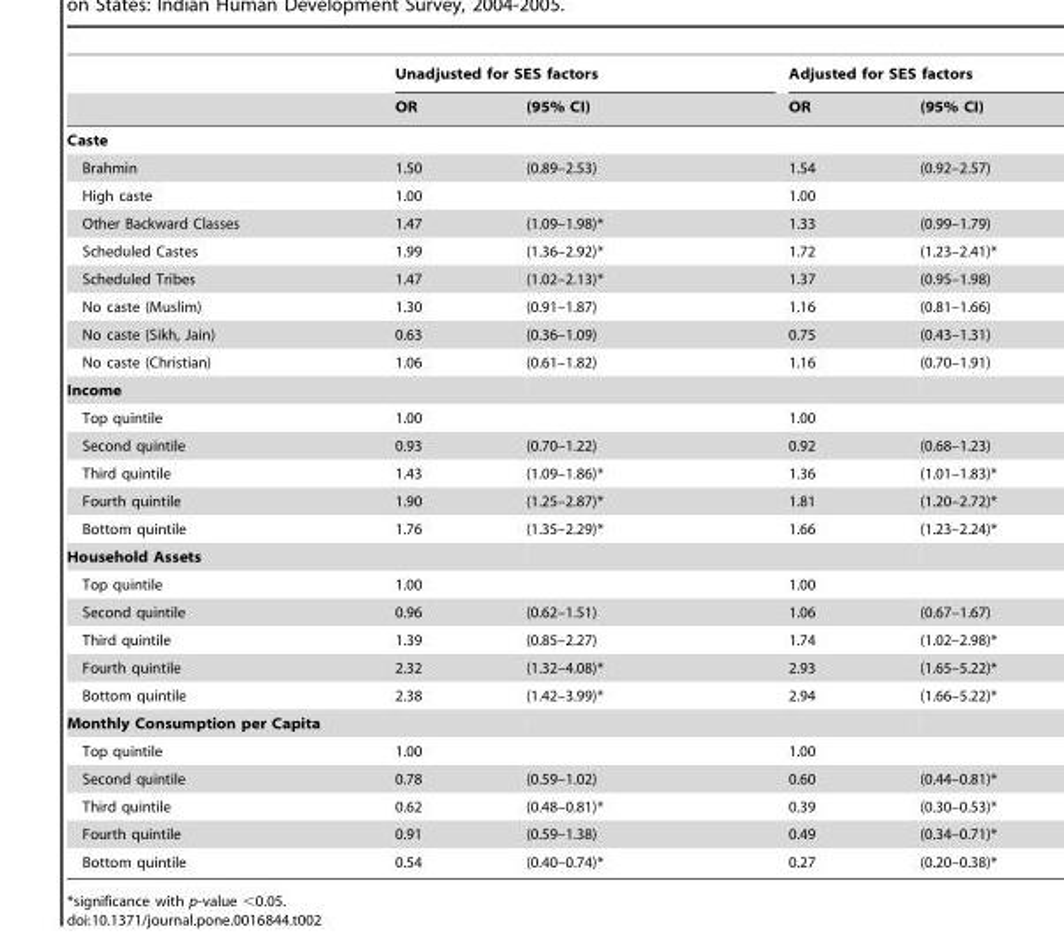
<table><thead><tr><td rowspan="2"></td><td colspan="2">Unadjusted for SES factors</td><td colspan="2">Adjusted for SES factors</td></tr><tr><td>OR</td><td>(95% CI)</td><td>OR</td><td>(95% CI)</td></tr></thead><tbody><tr><td colspan="5">Caste</td></tr><tr><td>Brahmin</td><td>1.50</td><td>(0.89–2.53)</td><td>1.54</td><td>(0.92–2.57)</td></tr><tr><td>High caste</td><td>1.00</td><td></td><td>1.00</td><td></td></tr><tr><td>Other Backward Classes</td><td>1.47</td><td>(1.09–1.98)*</td><td>1.33</td><td>(0.99–1.79)</td></tr><tr><td>Scheduled Castes</td><td>1.99</td><td>(1.36–2.92)*</td><td>1.72</td><td>(1.23–2.41)*</td></tr><tr><td>Scheduled Tribes</td><td>1.47</td><td>(1.02–2.13)*</td><td>1.37</td><td>(0.95–1.98)</td></tr><tr><td>No caste (Muslim)</td><td>1.30</td><td>(0.91–1.87)</td><td>1.16</td><td>(0.81–1.66)</td></tr><tr><td>No caste (Sikh, Jain)</td><td>0.63</td><td>(0.36–1.09)</td><td>0.75</td><td>(0.43–1.31)</td></tr><tr><td>No caste (Christian)</td><td>1.06</td><td>(0.61–1.82)</td><td>1.16</td><td>(0.70–1.91)</td></tr><tr><td colspan="5">Income</td></tr><tr><td>Top quintile</td><td>1.00</td><td></td><td>1.00</td><td></td></tr><tr><td>Second quintile</td><td>0.93</td><td>(0.70–1.22)</td><td>0.92</td><td>(0.68–1.23)</td></tr><tr><td>Third quintile</td><td>1.43</td><td>(1.09–1.86)*</td><td>1.36</td><td>(1.01–1.83)*</td></tr><tr><td>Fourth quintile</td><td>1.90</td><td>(1.25–2.87)*</td><td>1.81</td><td>(1.20–2.72)*</td></tr><tr><td>Bottom quintile</td><td>1.76</td><td>(1.35–2.29)*</td><td>1.66</td><td>(1.23–2.24)*</td></tr><tr><td colspan="5">Household Assets</td></tr><tr><td>Top quintile</td><td>1.00</td><td></td><td>1.00</td><td></td></tr><tr><td>Second quintile</td><td>0.96</td><td>(0.62–1.51)</td><td>1.06</td><td>(0.67–1.67)</td></tr><tr><td>Third quintile</td><td>1.39</td><td>(0.85–2.27)</td><td>1.74</td><td>(1.02–2.98)*</td></tr><tr><td>Fourth quintile</td><td>2.32</td><td>(1.32–4.08)*</td><td>2.93</td><td>(1.65–5.22)*</td></tr><tr><td>Bottom quintile</td><td>2.38</td><td>(1.42–3.99)*</td><td>2.94</td><td>(1.66–5.22)*</td></tr><tr><td colspan="5">Monthly Consumption per Capita</td></tr><tr><td>Top quintile</td><td>1.00</td><td></td><td>1.00</td><td></td></tr><tr><td>Second quintile</td><td>0.78</td><td>(0.59–1.02)</td><td>0.60</td><td>(0.44–0.81)*</td></tr><tr><td>Third quintile</td><td>0.62</td><td>(0.48–0.81)*</td><td>0.39</td><td>(0.30–0.53)*</td></tr><tr><td>Fourth quintile</td><td>0.91</td><td>(0.59–1.38)</td><td>0.49</td><td>(0.34–0.71)*</td></tr><tr><td>Bottom quintile</td><td>0.54</td><td>(0.40–0.74)*</td><td>0.27</td><td>(0.20–0.38)*</td></tr></tbody></table>